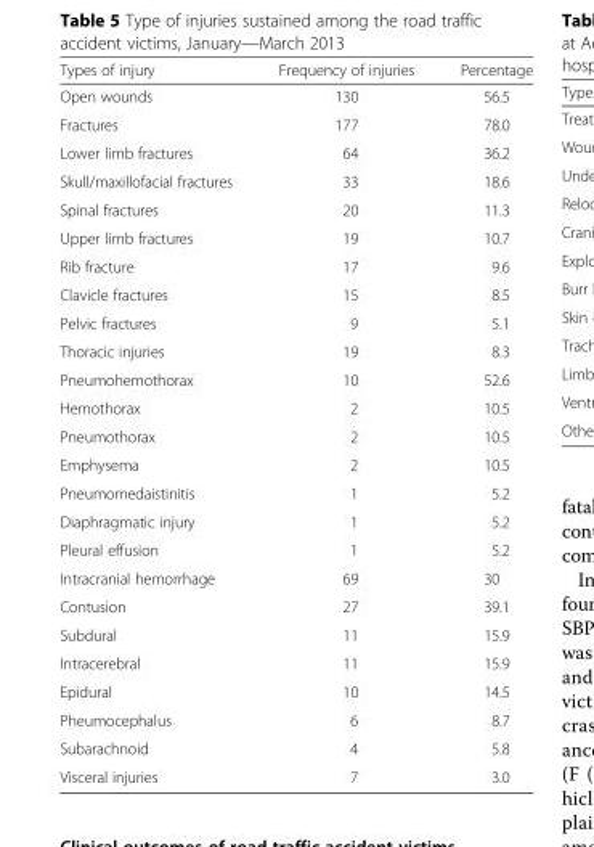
<table><thead><tr><td>Types of injury</td><td>Frequency of injuries</td><td>Percentage</td></tr></thead><tbody><tr><td>Open wounds</td><td>130</td><td>56.5</td></tr><tr><td>Fractures</td><td>177</td><td>78.0</td></tr><tr><td>Lower limb fractures</td><td>64</td><td>36.2</td></tr><tr><td>Skull/maxillofacial fractures</td><td>33</td><td>18.6</td></tr><tr><td>Spinal fractures</td><td>20</td><td>11.3</td></tr><tr><td>Upper limb fractures</td><td>19</td><td>10.7</td></tr><tr><td>Rib fracture</td><td>17</td><td>9.6</td></tr><tr><td>Clavicle fractures</td><td>15</td><td>8.5</td></tr><tr><td>Pelvic fractures</td><td>9</td><td>5.1</td></tr><tr><td>Thoracic injuries</td><td>19</td><td>8.3</td></tr><tr><td>Pneumohemothorax</td><td>10</td><td>52.6</td></tr><tr><td>Hemothorax</td><td>2</td><td>10.5</td></tr><tr><td>Pneumothorax</td><td>2</td><td>10.5</td></tr><tr><td>Emphysema</td><td>2</td><td>10.5</td></tr><tr><td>Pneumomedaistinitis</td><td>1</td><td>5.2</td></tr><tr><td>Diaphragmatic injury</td><td>1</td><td>5.2</td></tr><tr><td>Pleural effusion</td><td>1</td><td>5.2</td></tr><tr><td>Intracranial hemorrhage</td><td>69</td><td>30</td></tr><tr><td>Contusion</td><td>27</td><td>39.1</td></tr><tr><td>Subdural</td><td>11</td><td>15.9</td></tr><tr><td>Intracerebral</td><td>11</td><td>15.9</td></tr><tr><td>Epidural</td><td>10</td><td>14.5</td></tr><tr><td>Pheumocephalus</td><td>6</td><td>8.7</td></tr><tr><td>Subarachnoid</td><td>4</td><td>5.8</td></tr><tr><td>Visceral injuries</td><td>7</td><td>3.0</td></tr></tbody></table>